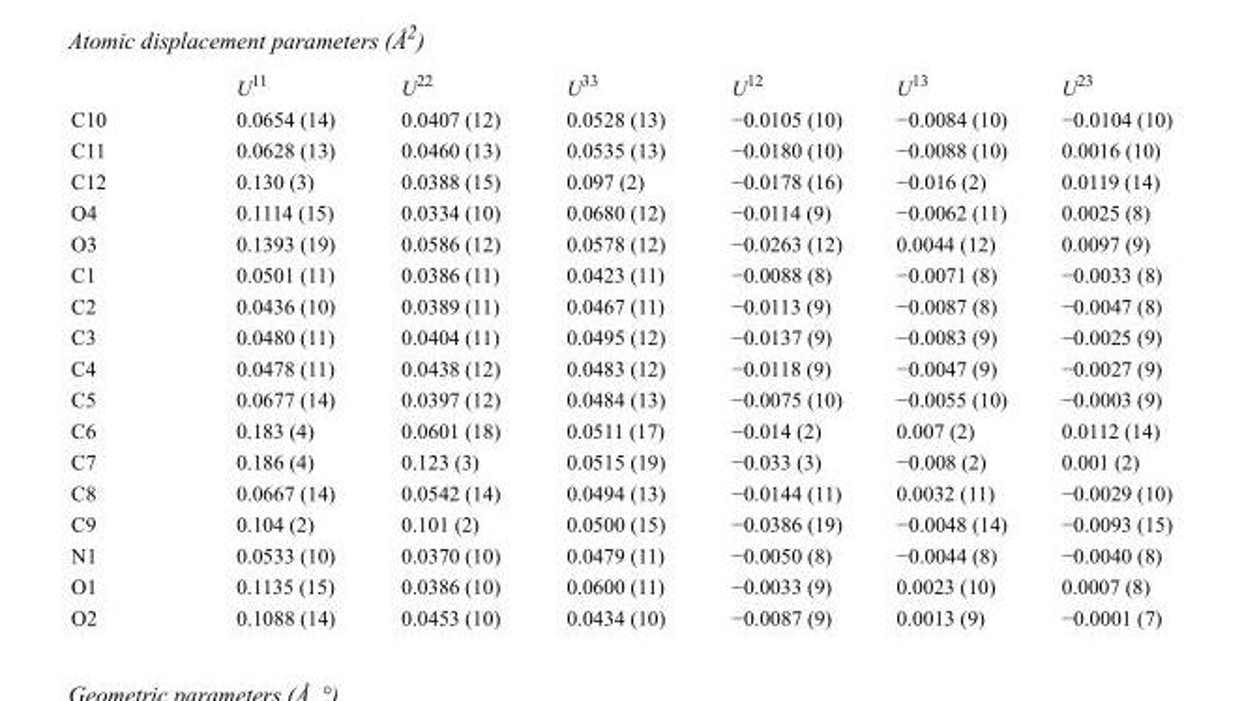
<table><thead><tr><td></td><td>U<sup>11</sup></td><td>U<sup>22</sup></td><td>U<sup>33</sup></td><td>U<sup>12</sup></td><td>U<sup>13</sup></td><td>U<sup>23</sup></td></tr></thead><tbody><tr><td>C10</td><td>0.0654 (14)</td><td>0.0407 (12)</td><td>0.0528 (13)</td><td>−0.0105 (10)</td><td>−0.0084 (10)</td><td>−0.0104 (10)</td></tr><tr><td>C11</td><td>0.0628 (13)</td><td>0.0460 (13)</td><td>0.0535 (13)</td><td>−0.0180 (10)</td><td>−0.0088 (10)</td><td>0.0016 (10)</td></tr><tr><td>C12</td><td>0.130 (3)</td><td>0.0388 (15)</td><td>0.097 (2)</td><td>−0.0178 (16)</td><td>−0.016 (2)</td><td>0.0119 (14)</td></tr><tr><td>O4</td><td>0.1114 (15)</td><td>0.0334 (10)</td><td>0.0680 (12)</td><td>−0.0114 (9)</td><td>−0.0062 (11)</td><td>0.0025 (8)</td></tr><tr><td>O3</td><td>0.1393 (19)</td><td>0.0586 (12)</td><td>0.0578 (12)</td><td>−0.0263 (12)</td><td>0.0044 (12)</td><td>0.0097 (9)</td></tr><tr><td>C1</td><td>0.0501 (11)</td><td>0.0386 (11)</td><td>0.0423 (11)</td><td>−0.0088 (8)</td><td>−0.0071 (8)</td><td>−0.0033 (8)</td></tr><tr><td>C2</td><td>0.0436 (10)</td><td>0.0389 (11)</td><td>0.0467 (11)</td><td>−0.0113 (9)</td><td>−0.0087 (8)</td><td>−0.0047 (8)</td></tr><tr><td>C3</td><td>0.0480 (11)</td><td>0.0404 (11)</td><td>0.0495 (12)</td><td>−0.0137 (9)</td><td>−0.0083 (9)</td><td>−0.0025 (9)</td></tr><tr><td>C4</td><td>0.0478 (11)</td><td>0.0438 (12)</td><td>0.0483 (12)</td><td>−0.0118 (9)</td><td>−0.0047 (9)</td><td>−0.0027 (9)</td></tr><tr><td>C5</td><td>0.0677 (14)</td><td>0.0397 (12)</td><td>0.0484 (13)</td><td>−0.0075 (10)</td><td>−0.0055 (10)</td><td>−0.0003 (9)</td></tr><tr><td>C6</td><td>0.183 (4)</td><td>0.0601 (18)</td><td>0.0511 (17)</td><td>−0.014 (2)</td><td>0.007 (2)</td><td>0.0112 (14)</td></tr><tr><td>C7</td><td>0.186 (4)</td><td>0.123 (3)</td><td>0.0515 (19)</td><td>−0.033 (3)</td><td>−0.008 (2)</td><td>0.001 (2)</td></tr><tr><td>C8</td><td>0.0667 (14)</td><td>0.0542 (14)</td><td>0.0494 (13)</td><td>−0.0144 (11)</td><td>0.0032 (11)</td><td>−0.0029 (10)</td></tr><tr><td>C9</td><td>0.104 (2)</td><td>0.101 (2)</td><td>0.0500 (15)</td><td>−0.0386 (19)</td><td>−0.0048 (14)</td><td>−0.0093 (15)</td></tr><tr><td>N1</td><td>0.0533 (10)</td><td>0.0370 (10)</td><td>0.0479 (11)</td><td>−0.0050 (8)</td><td>−0.0044 (8)</td><td>−0.0040 (8)</td></tr><tr><td>O1</td><td>0.1135 (15)</td><td>0.0386 (10)</td><td>0.0600 (11)</td><td>−0.0033 (9)</td><td>0.0023 (10)</td><td>0.0007 (8)</td></tr><tr><td>O2</td><td>0.1088 (14)</td><td>0.0453 (10)</td><td>0.0434 (10)</td><td>−0.0087 (9)</td><td>0.0013 (9)</td><td>−0.0001 (7)</td></tr></tbody></table>